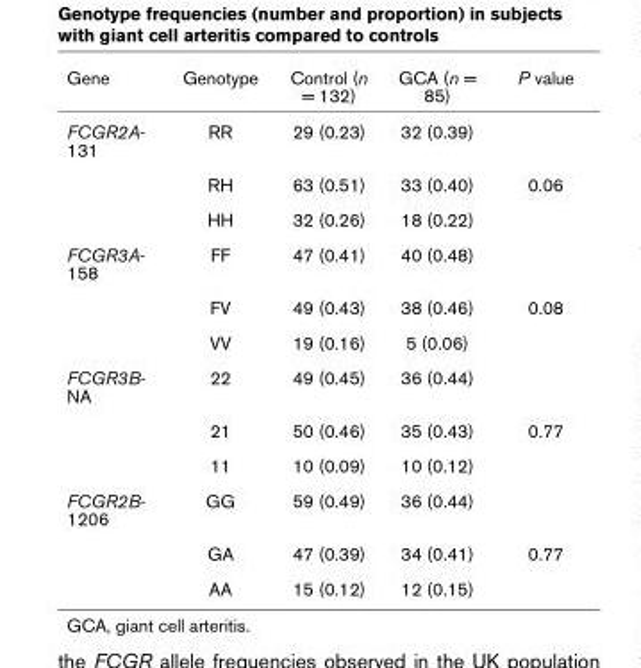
<table><thead><tr><td>Gene</td><td>Genotype</td><td>Control (n = 132)</td><td>GCA (n = 85)</td><td>P value</td></tr></thead><tbody><tr><td rowspan="3">FCGR2A- 131</td><td>RR</td><td>29 (0.23)</td><td>32 (0.39)</td><td></td></tr><tr><td>RH</td><td>63 (0.51)</td><td>33 (0.40)</td><td>0.06</td></tr><tr><td>HH</td><td>32 (0.26)</td><td>18 (0.22)</td><td></td></tr><tr><td rowspan="3">FCGR3A- 158</td><td>FF</td><td>47 (0.41)</td><td>40 (0.48)</td><td></td></tr><tr><td>FV</td><td>49 (0.43)</td><td>38 (0.46)</td><td>0.08</td></tr><tr><td>VV</td><td>19 (0.16)</td><td>5 (0.06)</td><td></td></tr><tr><td rowspan="3">FCGR3B- NA</td><td>22</td><td>49 (0.45)</td><td>36 (0.44)</td><td></td></tr><tr><td>21</td><td>50 (0.46)</td><td>35 (0.43)</td><td>0.77</td></tr><tr><td>11</td><td>10 (0.09)</td><td>10 (0.12)</td><td></td></tr><tr><td rowspan="3">FCGR2B- 1206</td><td>GG</td><td>59 (0.49)</td><td>36 (0.44)</td><td></td></tr><tr><td>GA</td><td>47 (0.39)</td><td>34 (0.41)</td><td>0.77</td></tr><tr><td>AA</td><td>15 (0.12)</td><td>12 (0.15)</td><td></td></tr></tbody></table>